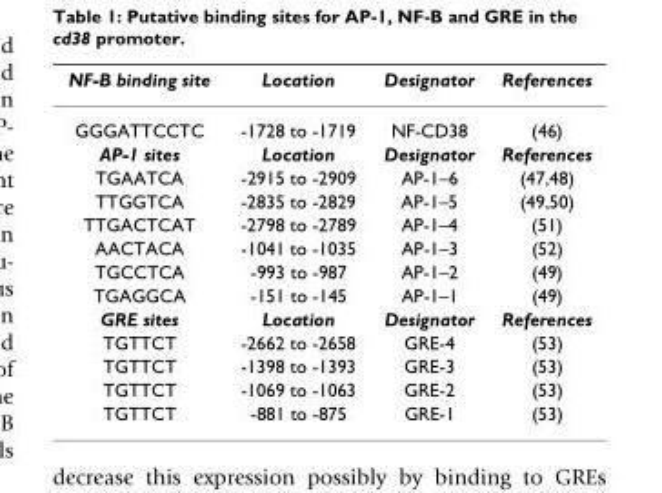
<table><thead><tr><td>NF-B binding site</td><td>Location</td><td>Designator</td><td>References</td></tr></thead><tbody><tr><td>GGGATTCCTC</td><td>-1728 to -1719</td><td>NF-CD38</td><td>(46)</td></tr><tr><td>AP-1 sites</td><td>Location</td><td>Designator</td><td>References</td></tr><tr><td>TGAATCA</td><td>-2915 to -2909</td><td>AP-1–6</td><td>(47,48)</td></tr><tr><td>TTGGTCA</td><td>-2835 to -2829</td><td>AP-1–5</td><td>(49,50)</td></tr><tr><td>TTGACTCAT</td><td>-2798 to -2789</td><td>AP-1–4</td><td>(51)</td></tr><tr><td>AACTACA</td><td>-1041 to -1035</td><td>AP-1–3</td><td>(52)</td></tr><tr><td>TGCCTCA</td><td>-993 to -987</td><td>AP-1–2</td><td>(49)</td></tr><tr><td>TGAGGCA</td><td>-151 to -145</td><td>AP-1–1</td><td>(49)</td></tr><tr><td>GRE sites</td><td>Location</td><td>Designator</td><td>References</td></tr><tr><td>TGTTCT</td><td>-2662 to -2658</td><td>GRE-4</td><td>(53)</td></tr><tr><td>TGTTCT</td><td>-1398 to -1393</td><td>GRE-3</td><td>(53)</td></tr><tr><td>TGTTCT</td><td>-1069 to -1063</td><td>GRE-2</td><td>(53)</td></tr><tr><td>TGTTCT</td><td>-881 to -875</td><td>GRE-1</td><td>(53)</td></tr></tbody></table>